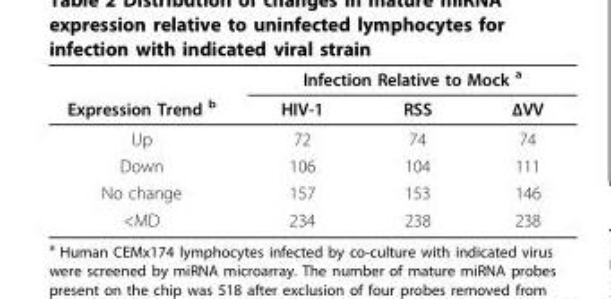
<table><thead><tr><td rowspan="2">Expression Trend <sup>b</sup></td><td colspan="3">Infection Relative to Mock <sup>a</sup></td></tr><tr><td>HIV-1</td><td>RSS</td><td>ΔVV</td></tr></thead><tbody><tr><td>Up</td><td>72</td><td>74</td><td>74</td></tr><tr><td>Down</td><td>106</td><td>104</td><td>111</td></tr><tr><td>No change</td><td>157</td><td>153</td><td>146</td></tr><tr><td>&lt;MD</td><td>234</td><td>238</td><td>238</td></tr></tbody></table>